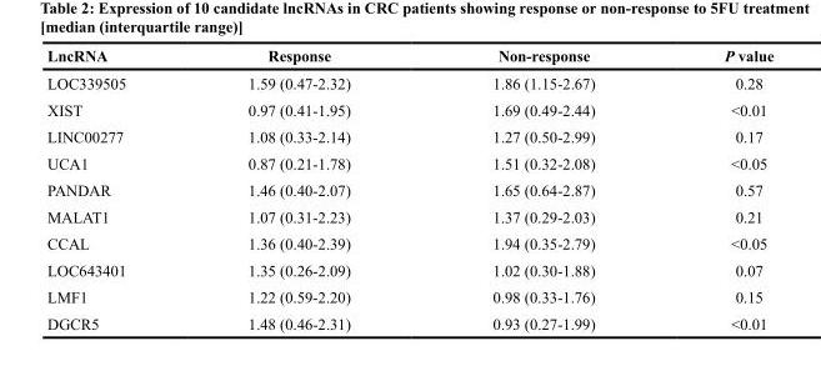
<table><thead><tr><td>LncRNA</td><td>Response</td><td>Non-response</td><td>P value</td></tr></thead><tbody><tr><td>LOC339505</td><td>1.59 (0.47-2.32)</td><td>1.86 (1.15-2.67)</td><td>0.28</td></tr><tr><td>XIST</td><td>0.97 (0.41-1.95)</td><td>1.69 (0.49-2.44)</td><td>&lt;0.01</td></tr><tr><td>LINC00277</td><td>1.08 (0.33-2.14)</td><td>1.27 (0.50-2.99)</td><td>0.17</td></tr><tr><td>UCA1</td><td>0.87 (0.21-1.78)</td><td>1.51 (0.32-2.08)</td><td>&lt;0.05</td></tr><tr><td>PANDAR</td><td>1.46 (0.40-2.07)</td><td>1.65 (0.64-2.87)</td><td>0.57</td></tr><tr><td>MALAT1</td><td>1.07 (0.31-2.23)</td><td>1.37 (0.29-2.03)</td><td>0.21</td></tr><tr><td>CCAL</td><td>1.36 (0.40-2.39)</td><td>1.94 (0.35-2.79)</td><td>&lt;0.05</td></tr><tr><td>LOC643401</td><td>1.35 (0.26-2.09)</td><td>1.02 (0.30-1.88)</td><td>0.07</td></tr><tr><td>LMF1</td><td>1.22 (0.59-2.20)</td><td>0.98 (0.33-1.76)</td><td>0.15</td></tr><tr><td>DGCR5</td><td>1.48 (0.46-2.31)</td><td>0.93 (0.27-1.99)</td><td>&lt;0.01</td></tr></tbody></table>